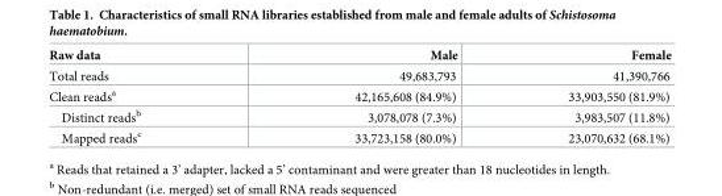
<table><thead><tr><td>Raw data</td><td>Male</td><td>Female</td></tr></thead><tbody><tr><td>Total reads</td><td>49,683,793</td><td>41,390,766</td></tr><tr><td>Clean reads<sup>a</sup></td><td>42,165,608 (84.9%)</td><td>33,903,550 (81.9%)</td></tr><tr><td>Distinct reads<sup>b</sup></td><td>3,078,078 (7.3%)</td><td>3,983,507 (11.8%)</td></tr><tr><td>Mapped reads<sup>c</sup></td><td>33,723,158 (80.0%)</td><td>23,070,632 (68.1%)</td></tr></tbody></table>